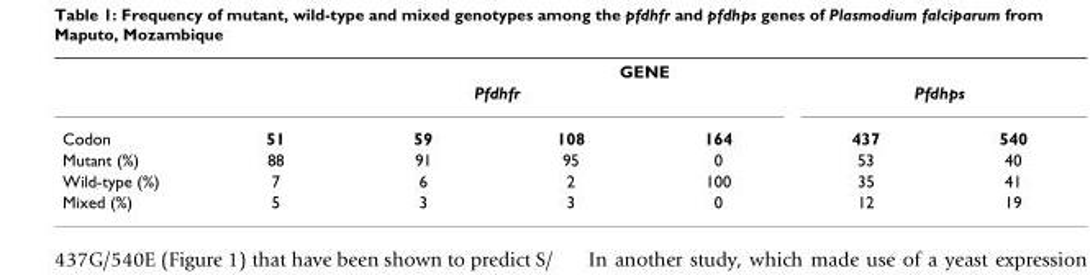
<table><thead><tr><td rowspan="3">Codon</td><td colspan="6">GENE</td></tr><tr><td colspan="4">Pfdhfr</td><td colspan="2">Pfdhps</td></tr><tr><td>51</td><td>59</td><td>108</td><td>164</td><td>437</td><td>540</td></tr></thead><tbody><tr><td>Mutant (%)</td><td>88</td><td>91</td><td>95</td><td>0</td><td>53</td><td>40</td></tr><tr><td>Wild-type (%)</td><td>7</td><td>6</td><td>2</td><td>100</td><td>35</td><td>41</td></tr><tr><td>Mixed (%)</td><td>5</td><td>3</td><td>3</td><td>0</td><td>12</td><td>19</td></tr></tbody></table>